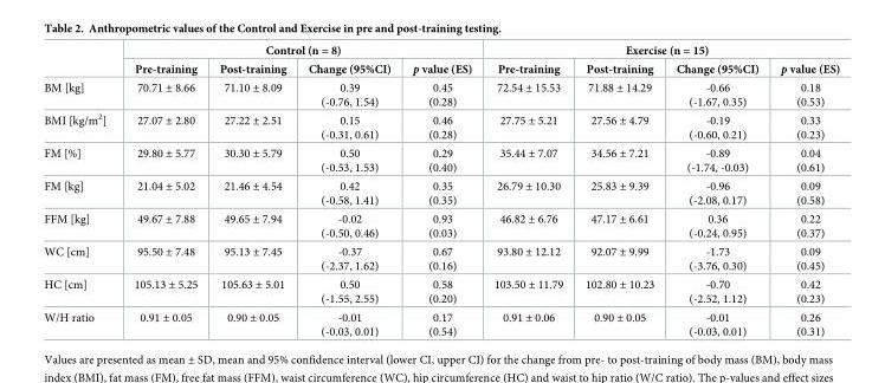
<table><thead><tr><td rowspan="2"></td><td colspan="4">Control (n = 8)</td><td colspan="4">Exercise (n = 15)</td></tr><tr><td>Pre-training</td><td>Post-training</td><td>Change (95%CI)</td><td>p value (ES)</td><td>Pre-training</td><td>Post-training</td><td>Change (95%CI)</td><td>p value (ES)</td></tr></thead><tbody><tr><td>BM [kg]</td><td>70.71 ± 8.66</td><td>71.10 ± 8.09</td><td>0.39 (-0.76, 1.54)</td><td>0.45 (0.28)</td><td>72.54 ± 15.53</td><td>71.88 ± 14.29</td><td>-0.66 (-1.67, 0.35)</td><td>0.18 (0.53)</td></tr><tr><td>BMI [kg/m<sup>2</sup>]</td><td>27.07 ± 2.80</td><td>27.22 ± 2.51</td><td>0.15 (-0.31, 0.61)</td><td>0.46 (0.28)</td><td>27.75 ± 5.21</td><td>27.56 ± 4.79</td><td>-0.19 (-0.60, 0.21)</td><td>0.33 (0.23)</td></tr><tr><td>FM [%]</td><td>29.80 ± 5.77</td><td>30.30 ± 5.79</td><td>0.50 (-0.53, 1.53)</td><td>0.29 (0.40)</td><td>35.44 ± 7.07</td><td>34.56 ± 7.21</td><td>-0.89 (-1.74, -0.03)</td><td>0.04 (0.61)</td></tr><tr><td>FM [kg]</td><td>21.04 ± 5.02</td><td>21.46 ± 4.54</td><td>0.42 (-0.58, 1.41)</td><td>0.35 (0.35)</td><td>26.79 ± 10.30</td><td>25.83 ± 9.39</td><td>-0.96 (-2.08, 0.17)</td><td>0.09 (0.58)</td></tr><tr><td>FFM [kg]</td><td>49.67 ± 7.88</td><td>49.65 ± 7.94</td><td>-0.02 (-0.50, 0.46)</td><td>0.93 (0.03)</td><td>46.82 ± 6.76</td><td>47.17 ± 6.61</td><td>0.36 (-0.24, 0.95)</td><td>0.22 (0.37)</td></tr><tr><td>WC [cm]</td><td>95.50 ± 7.48</td><td>95.13 ± 7.45</td><td>-0.37 (-2.37, 1.62)</td><td>0.67 (0.16)</td><td>93.80 ± 12.12</td><td>92.07 ± 9.99</td><td>-1.73 (-3.76, 0.30)</td><td>0.09 (0.45)</td></tr><tr><td>HC [cm]</td><td>105.13 ± 5.25</td><td>105.63 ± 5.01</td><td>0.50 (-1.55, 2.55)</td><td>0.58 (0.20)</td><td>103.50 ± 11.79</td><td>102.80 ± 10.23</td><td>-0.70 (-2.52, 1.12)</td><td>0.42 (0.23)</td></tr><tr><td>W/H ratio</td><td>0.91 ± 0.05</td><td>0.90 ± 0.05</td><td>-0.01 (-0.03, 0.01)</td><td>0.17 (0.54)</td><td>0.91 ± 0.06</td><td>0.90 ± 0.05</td><td>-0.01 (-0.03, 0.01)</td><td>0.26 (0.31)</td></tr></tbody></table>